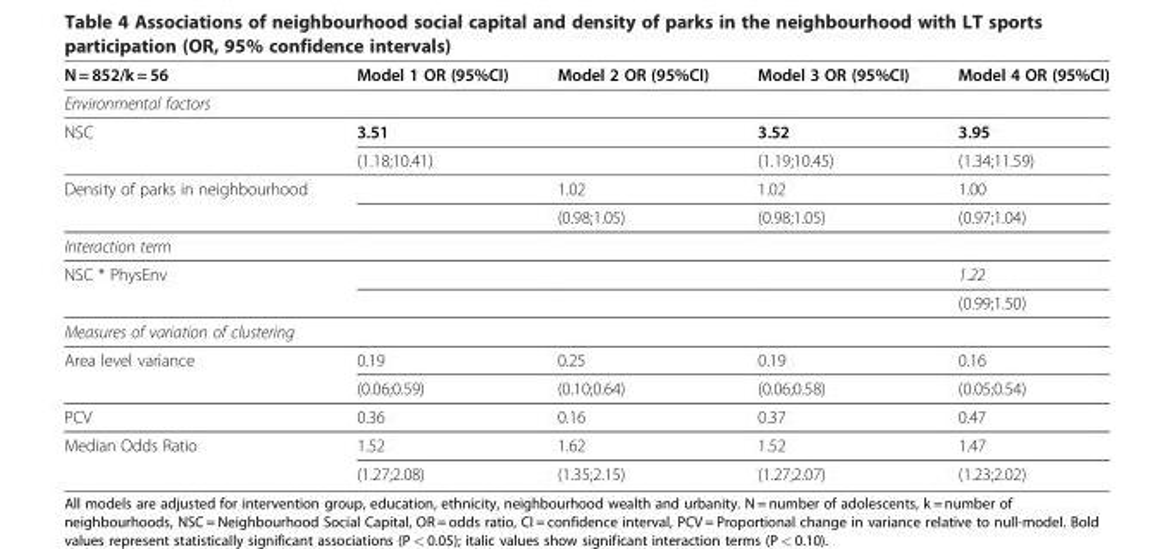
<table><thead><tr><td>N = 852/k = 56</td><td>Model 1 OR (95%CI)</td><td>Model 2 OR (95%CI)</td><td>Model 3 OR (95%CI)</td><td>Model 4 OR (95%CI)</td></tr></thead><tbody><tr><td colspan="5">Environmental factors</td></tr><tr><td rowspan="2">NSC</td><td>3.51</td><td></td><td>3.52</td><td>3.95</td></tr><tr><td>(1.18;10.41)</td><td></td><td>(1.19;10.45)</td><td>(1.34;11.59)</td></tr><tr><td rowspan="2">Density of parks in neighbourhood</td><td></td><td>1.02</td><td>1.02</td><td>1.00</td></tr><tr><td></td><td>(0.98;1.05)</td><td>(0.98;1.05)</td><td>(0.97;1.04)</td></tr><tr><td colspan="5">Interaction term</td></tr><tr><td rowspan="2">NSC * PhysEnv</td><td></td><td></td><td></td><td>1.22</td></tr><tr><td></td><td></td><td></td><td>(0.99;1.50)</td></tr><tr><td colspan="5">Measures of variation of clustering</td></tr><tr><td rowspan="2">Area level variance</td><td>0.19</td><td>0.25</td><td>0.19</td><td>0.16</td></tr><tr><td>(0.06;0.59)</td><td>(0.10;0.64)</td><td>(0.06;0.58)</td><td>(0.05;0.54)</td></tr><tr><td>PCV</td><td>0.36</td><td>0.16</td><td>0.37</td><td>0.47</td></tr><tr><td rowspan="2">Median Odds Ratio</td><td>1.52</td><td>1.62</td><td>1.52</td><td>1.47</td></tr><tr><td>(1.27;2.08)</td><td>(1.35;2.15)</td><td>(1.27;2.07)</td><td>(1.23;2.02)</td></tr></tbody></table>